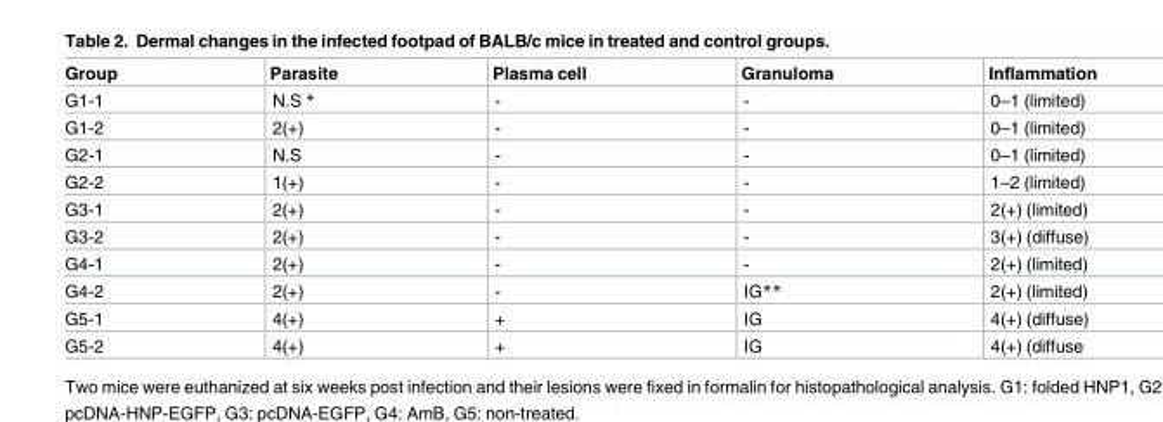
<table><thead><tr><td>Group</td><td>Parasite</td><td>Plasma cell</td><td>Granuloma</td><td>Inflammation</td></tr></thead><tbody><tr><td>G1-1</td><td>N.S *</td><td>-</td><td>-</td><td>0–1 (limited)</td></tr><tr><td>G1-2</td><td>2(+)</td><td>-</td><td>-</td><td>0–1 (limited)</td></tr><tr><td>G2-1</td><td>N.S</td><td>-</td><td>-</td><td>0–1 (limited)</td></tr><tr><td>G2-2</td><td>1(+)</td><td>-</td><td>-</td><td>1–2 (limited)</td></tr><tr><td>G3-1</td><td>2(+)</td><td>-</td><td>-</td><td>2(+) (limited)</td></tr><tr><td>G3-2</td><td>2(+)</td><td>-</td><td>-</td><td>3(+) (diffuse)</td></tr><tr><td>G4-1</td><td>2(+)</td><td>-</td><td>-</td><td>2(+) (limited)</td></tr><tr><td>G4-2</td><td>2(+)</td><td>-</td><td>IG**</td><td>2(+) (limited)</td></tr><tr><td>G5-1</td><td>4(+)</td><td>+</td><td>IG</td><td>4(+) (diffuse)</td></tr><tr><td>G5-2</td><td>4(+)</td><td>+</td><td>IG</td><td>4(+) (diffuse</td></tr></tbody></table>